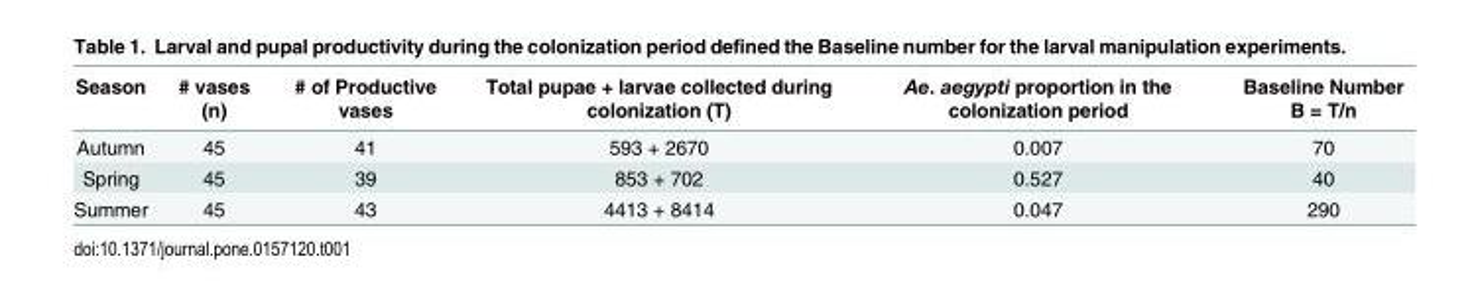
<table><thead><tr><td>Season</td><td># vases (n)</td><td># of Productive vases</td><td>Total pupae + larvae collected during colonization (T)</td><td>Ae. aegypti proportion in the colonization period</td><td>Baseline Number B = T/n</td></tr></thead><tbody><tr><td>Autumn</td><td>45</td><td>41</td><td>593 + 2670</td><td>0.007</td><td>70</td></tr><tr><td>Spring</td><td>45</td><td>39</td><td>853 + 702</td><td>0.527</td><td>40</td></tr><tr><td>Summer</td><td>45</td><td>43</td><td>4413 + 8414</td><td>0.047</td><td>290</td></tr></tbody></table>